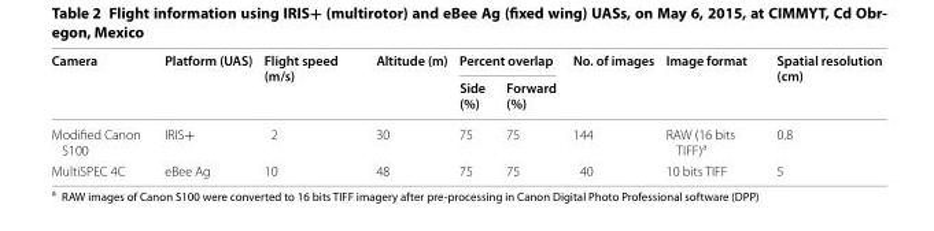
<table><thead><tr><td rowspan="2">Camera</td><td rowspan="2">Platform (UAS)</td><td rowspan="2">Flight speed (m/s)</td><td rowspan="2">Altitude (m)</td><td colspan="2">Percent overlap</td><td rowspan="2">No. of images</td><td rowspan="2">Image format</td><td rowspan="2">Spatial resolution (cm)</td></tr><tr><td>Side (%)</td><td>Forward (%)</td></tr></thead><tbody><tr><td>Modified Canon S100</td><td>IRIS+</td><td>2</td><td>30</td><td>75</td><td>75</td><td>144</td><td>RAW (16 bits TIFF)<sup>a</sup></td><td>0.8</td></tr><tr><td>MultiSPEC 4C</td><td>eBee Ag</td><td>10</td><td>48</td><td>75</td><td>75</td><td>40</td><td>10 bits TIFF</td><td>5</td></tr></tbody></table>